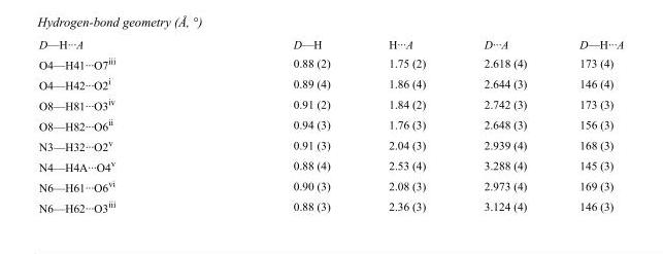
<table><tbody><tr><td>D—H···A</td><td>D—H</td><td>H···A</td><td>D···A</td><td>D—H···A</td></tr><tr><td>O4—H41···O7<sup>iii</sup></td><td>0.88 (2)</td><td>1.75 (2)</td><td>2.618 (4)</td><td>173 (4)</td></tr><tr><td>O4—H42···O2<sup>i</sup></td><td>0.89 (4)</td><td>1.86 (4)</td><td>2.644 (3)</td><td>146 (4)</td></tr><tr><td>O8—H81···O3<sup>iv</sup></td><td>0.91 (2)</td><td>1.84 (2)</td><td>2.742 (3)</td><td>173 (3)</td></tr><tr><td>O8—H82···O6<sup>ii</sup></td><td>0.94 (3)</td><td>1.76 (3)</td><td>2.648 (3)</td><td>156 (3)</td></tr><tr><td>N3—H32···O2<sup>v</sup></td><td>0.91 (3)</td><td>2.04 (3)</td><td>2.939 (4)</td><td>168 (3)</td></tr><tr><td>N4—H4A···O4<sup>v</sup></td><td>0.88 (4)</td><td>2.53 (4)</td><td>3.288 (4)</td><td>145 (3)</td></tr><tr><td>N6—H61···O6<sup>vi</sup></td><td>0.90 (3)</td><td>2.08 (3)</td><td>2.973 (4)</td><td>169 (3)</td></tr><tr><td>N6—H62···O3<sup>iii</sup></td><td>0.88 (3)</td><td>2.36 (3)</td><td>3.124 (4)</td><td>146 (3)</td></tr></tbody></table>